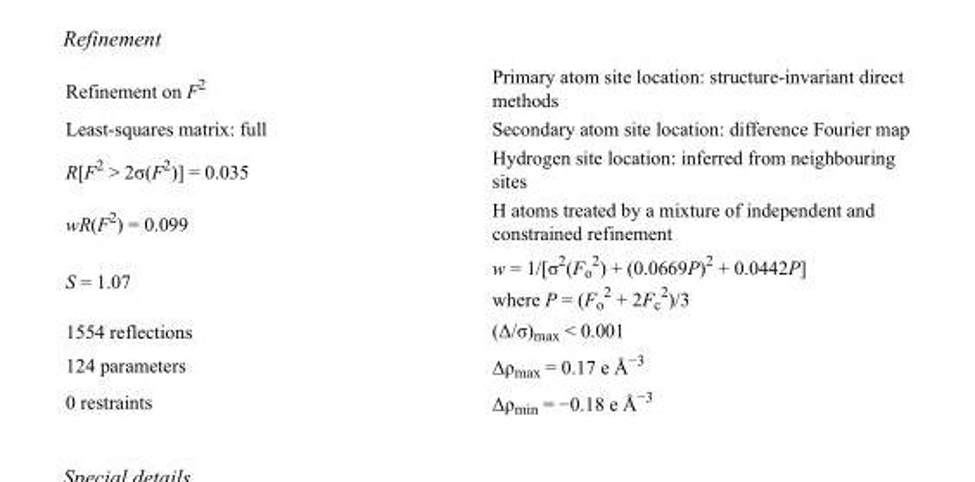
<table><tbody><tr><td>Refinement on F<sup>2</sup></td><td>Primary atom site location: structure-invariant direct methods</td></tr><tr><td>Least-squares matrix: full</td><td>Secondary atom site location: difference Fourier map</td></tr><tr><td>R[F<sup>2</sup> &gt; 2σ(F<sup>2</sup>)] = 0.035</td><td>Hydrogen site location: inferred from neighbouring sites</td></tr><tr><td>wR(F<sup>2</sup>) = 0.099</td><td>H atoms treated by a mixture of independent and constrained refinement</td></tr><tr><td>S = 1.07</td><td>w = 1/[σ<sup>2</sup>(F<sub>o</sub> <sup>2</sup>) + (0.0669P)<sup>2</sup> + 0.0442P] where P = (F<sub>o</sub> <sup>2</sup> + 2F<sub>c</sub> <sup>2</sup>)/3</td></tr><tr><td>1554 reflections</td><td>(Δ/σ)<sub>max</sub> &lt; 0.001</td></tr><tr><td>124 parameters</td><td>Δρ<sub>max</sub> = 0.17 e Å<sup>−3</sup></td></tr><tr><td>0 restraints</td><td>Δρ<sub>min</sub> = −0.18 e Å<sup>−3</sup></td></tr></tbody></table>